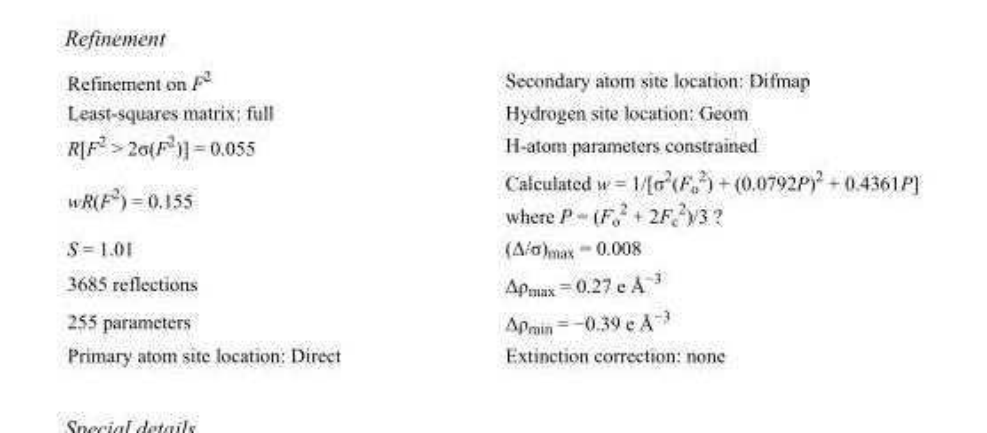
<table><tbody><tr><td>Refinement on F<sup>2</sup></td><td>Secondary atom site location: Difmap</td></tr><tr><td>Least-squares matrix: full</td><td>Hydrogen site location: Geom</td></tr><tr><td>R[F<sup>2</sup> &gt; 2σ(F<sup>2</sup>)] = 0.055</td><td>H-atom parameters constrained</td></tr><tr><td>wR(F<sup>2</sup>) = 0.155</td><td>Calculated w = 1/[σ<sup>2</sup>(F<sub>o</sub> <sup>2</sup>) + (0.0792P)<sup>2</sup> + 0.4361P] where P = (F<sub>o</sub> <sup>2</sup> + 2F<sub>c</sub> <sup>2</sup>)/3 ?</td></tr><tr><td>S = 1.01</td><td>(Δ/σ)<sub>max</sub> = 0.008</td></tr><tr><td>3685 reflections</td><td>Δρ<sub>max</sub> = 0.27 e Å<sup>−3</sup></td></tr><tr><td>255 parameters</td><td>Δρ<sub>min</sub> = −0.39 e Å<sup>−3</sup></td></tr><tr><td>Primary atom site location: Direct</td><td>Extinction correction: none</td></tr></tbody></table>